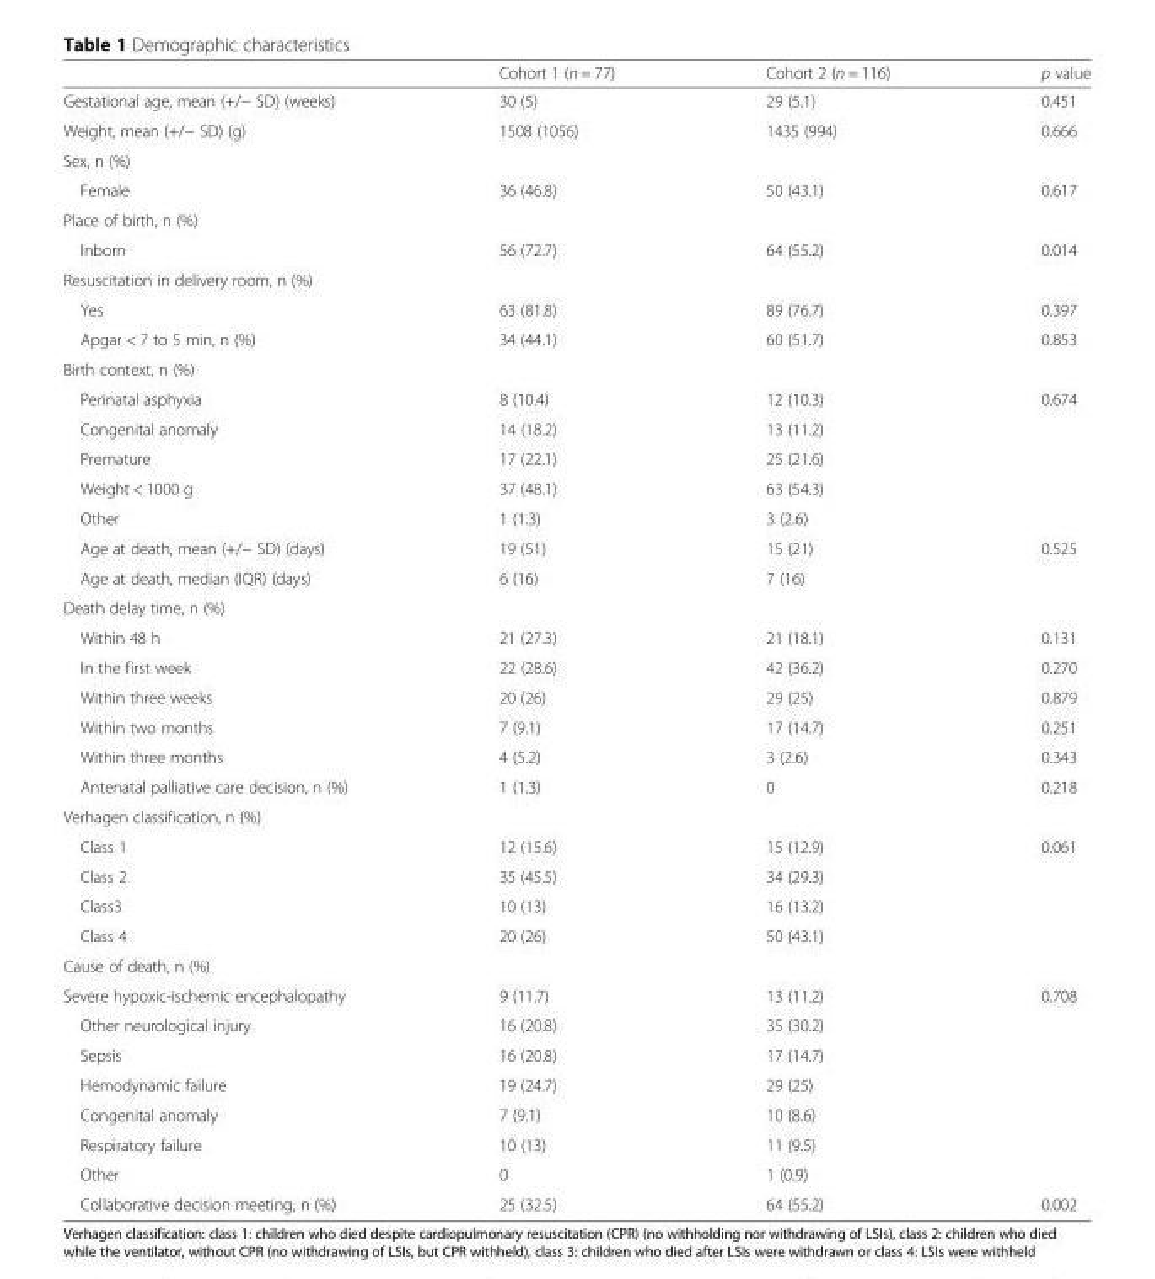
<table><thead><tr><td></td><td>Cohort 1 (n = 77)</td><td>Cohort 2 (n = 116)</td><td>p value</td></tr></thead><tbody><tr><td>Gestational age, mean (+/− SD) (weeks)</td><td>30 (5)</td><td>29 (5.1)</td><td>0.451</td></tr><tr><td>Weight, mean (+/− SD) (g)</td><td>1508 (1056)</td><td>1435 (994)</td><td>0.666</td></tr><tr><td colspan="4">Sex, n (%)</td></tr><tr><td>Female</td><td>36 (46.8)</td><td>50 (43.1)</td><td>0.617</td></tr><tr><td colspan="4">Place of birth, n (%)</td></tr><tr><td>Inborn</td><td>56 (72.7)</td><td>64 (55.2)</td><td>0.014</td></tr><tr><td colspan="4">Resuscitation in delivery room, n (%)</td></tr><tr><td>Yes</td><td>63 (81.8)</td><td>89 (76.7)</td><td>0.397</td></tr><tr><td>Apgar &lt; 7 to 5 min, n (%)</td><td>34 (44.1)</td><td>60 (51.7)</td><td>0.853</td></tr><tr><td colspan="4">Birth context, n (%)</td></tr><tr><td>Perinatal asphyxia</td><td>8 (10.4)</td><td>12 (10.3)</td><td rowspan="5">0.674</td></tr><tr><td>Congenital anomaly</td><td>14 (18.2)</td><td>13 (11.2)</td></tr><tr><td>Premature</td><td>17 (22.1)</td><td>25 (21.6)</td></tr><tr><td>Weight &lt; 1000 g</td><td>37 (48.1)</td><td>63 (54.3)</td></tr><tr><td>Other</td><td>1 (1.3)</td><td>3 (2.6)</td></tr><tr><td>Age at death, mean (+/− SD) (days)</td><td>19 (51)</td><td>15 (21)</td><td rowspan="2">0.525</td></tr><tr><td>Age at death, median (IQR) (days)</td><td>6 (16)</td><td>7 (16)</td></tr><tr><td colspan="4">Death delay time, n (%)</td></tr><tr><td>Within 48 h</td><td>21 (27.3)</td><td>21 (18.1)</td><td>0.131</td></tr><tr><td>In the first week</td><td>22 (28.6)</td><td>42 (36.2)</td><td>0.270</td></tr><tr><td>Within three weeks</td><td>20 (26)</td><td>29 (25)</td><td>0.879</td></tr><tr><td>Within two months</td><td>7 (9.1)</td><td>17 (14.7)</td><td>0.251</td></tr><tr><td>Within three months</td><td>4 (5.2)</td><td>3 (2.6)</td><td>0.343</td></tr><tr><td>Antenatal palliative care decision, n (%)</td><td>1 (1.3)</td><td>0</td><td>0.218</td></tr><tr><td colspan="4">Verhagen classification, n (%)</td></tr><tr><td>Class 1</td><td>12 (15.6)</td><td>15 (12.9)</td><td rowspan="4">0.061</td></tr><tr><td>Class 2</td><td>35 (45.5)</td><td>34 (29.3)</td></tr><tr><td>Class3</td><td>10 (13)</td><td>16 (13.2)</td></tr><tr><td>Class 4</td><td>20 (26)</td><td>50 (43.1)</td></tr><tr><td colspan="4">Cause of death, n (%)</td></tr><tr><td>Severe hypoxic-ischemic encephalopathy</td><td>9 (11.7)</td><td>13 (11.2)</td><td rowspan="7">0.708</td></tr><tr><td>Other neurological injury</td><td>16 (20.8)</td><td>35 (30.2)</td></tr><tr><td>Sepsis</td><td>16 (20.8)</td><td>17 (14.7)</td></tr><tr><td>Hemodynamic failure</td><td>19 (24.7)</td><td>29 (25)</td></tr><tr><td>Congenital anomaly</td><td>7 (9.1)</td><td>10 (8.6)</td></tr><tr><td>Respiratory failure</td><td>10 (13)</td><td>11 (9.5)</td></tr><tr><td>Other</td><td>0</td><td>1 (0.9)</td></tr><tr><td>Collaborative decision meeting, n (%)</td><td>25 (32.5)</td><td>64 (55.2)</td><td>0.002</td></tr></tbody></table>